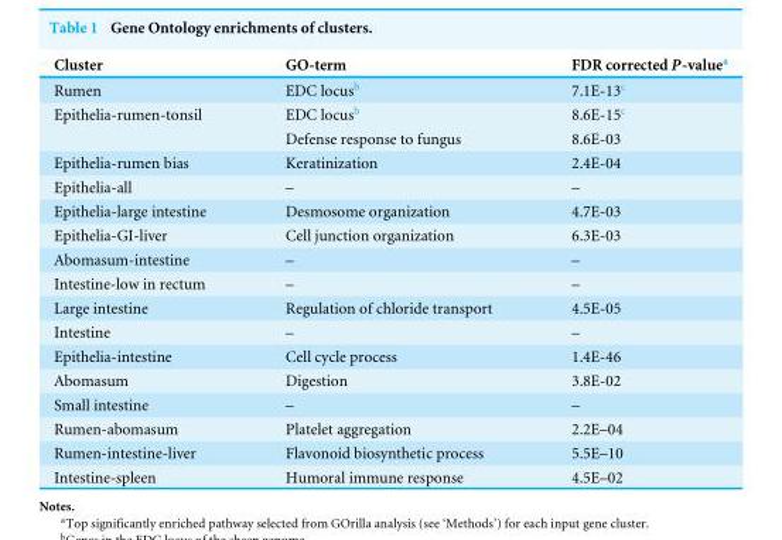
<table><thead><tr><td>Cluster</td><td>GO-term</td><td>FDR corrected P-value<sup>a</sup></td></tr></thead><tbody><tr><td>Rumen</td><td>EDC locus<sup>b</sup></td><td>7.1E-13<sup>c</sup></td></tr><tr><td rowspan="2">Epithelia-rumen-tonsil</td><td>EDC locus<sup>b</sup></td><td>8.6E-15<sup>c</sup></td></tr><tr><td>Defense response to fungus</td><td>8.6E-03</td></tr><tr><td>Epithelia-rumen bias</td><td>Keratinization</td><td>2.4E-04</td></tr><tr><td>Epithelia-all</td><td>–</td><td>–</td></tr><tr><td>Epithelia-large intestine</td><td>Desmosome organization</td><td>4.7E-03</td></tr><tr><td>Epithelia-GI-liver</td><td>Cell junction organization</td><td>6.3E-03</td></tr><tr><td>Abomasum-intestine</td><td>–</td><td>–</td></tr><tr><td>Intestine-low in rectum</td><td>–</td><td>–</td></tr><tr><td>Large intestine</td><td>Regulation of chloride transport</td><td>4.5E-05</td></tr><tr><td>Intestine</td><td>–</td><td>–</td></tr><tr><td>Epithelia-intestine</td><td>Cell cycle process</td><td>1.4E-46</td></tr><tr><td>Abomasum</td><td>Digestion</td><td>3.8E-02</td></tr><tr><td>Small intestine</td><td>–</td><td>–</td></tr><tr><td>Rumen-abomasum</td><td>Platelet aggregation</td><td>2.2E–04</td></tr><tr><td>Rumen-intestine-liver</td><td>Flavonoid biosynthetic process</td><td>5.5E–10</td></tr><tr><td>Intestine-spleen</td><td>Humoral immune response</td><td>4.5E–02</td></tr></tbody></table>